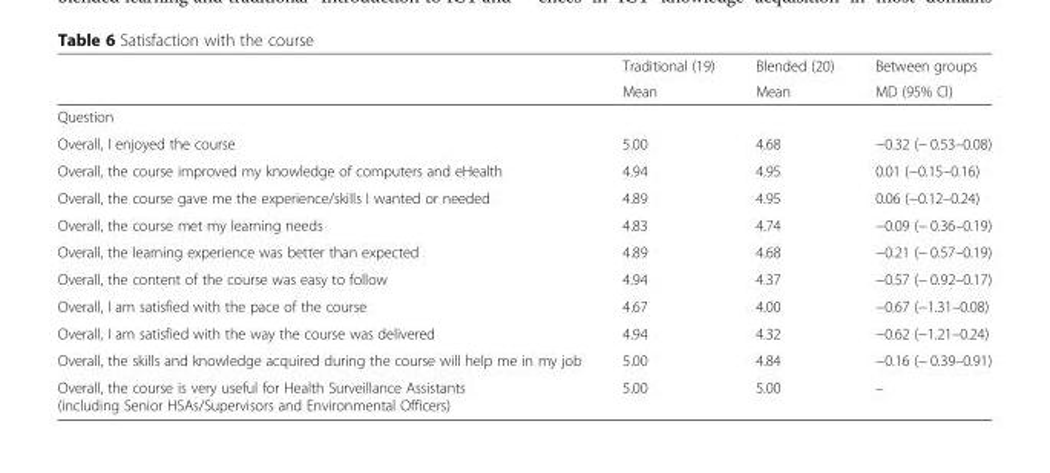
<table><thead><tr><td rowspan="2"></td><td rowspan="2">Traditional (19) Mean</td><td rowspan="2">Blended (20) Mean</td><td rowspan="2">Between groups MD (95% CI)</td></tr><tr></tr></thead><tbody><tr><td colspan="4">Question</td></tr><tr><td>Overall, I enjoyed the course</td><td>5.00</td><td>4.68</td><td>−0.32 (− 0.53–0.08)</td></tr><tr><td>Overall, the course improved my knowledge of computers and eHealth</td><td>4.94</td><td>4.95</td><td>0.01 (−0.15–0.16)</td></tr><tr><td>Overall, the course gave me the experience/skills I wanted or needed</td><td>4.89</td><td>4.95</td><td>0.06 (−0.12–0.24)</td></tr><tr><td>Overall, the course met my learning needs</td><td>4.83</td><td>4.74</td><td>−0.09 (− 0.36–0.19)</td></tr><tr><td>Overall, the learning experience was better than expected</td><td>4.89</td><td>4.68</td><td>−0.21 (− 0.57–0.19)</td></tr><tr><td>Overall, the content of the course was easy to follow</td><td>4.94</td><td>4.37</td><td>−0.57 (− 0.92–0.17)</td></tr><tr><td>Overall, I am satisfied with the pace of the course</td><td>4.67</td><td>4.00</td><td>−0.67 (−1.31–0.08)</td></tr><tr><td>Overall, I am satisfied with the way the course was delivered</td><td>4.94</td><td>4.32</td><td>−0.62 (−1.21–0.24)</td></tr><tr><td>Overall, the skills and knowledge acquired during the course will help me in my job</td><td>5.00</td><td>4.84</td><td>−0.16 (− 0.39–0.91)</td></tr><tr><td>Overall, the course is very useful for Health Surveillance Assistants (including Senior HSAs/Supervisors and Environmental Officers)</td><td>5.00</td><td>5.00</td><td>–</td></tr></tbody></table>